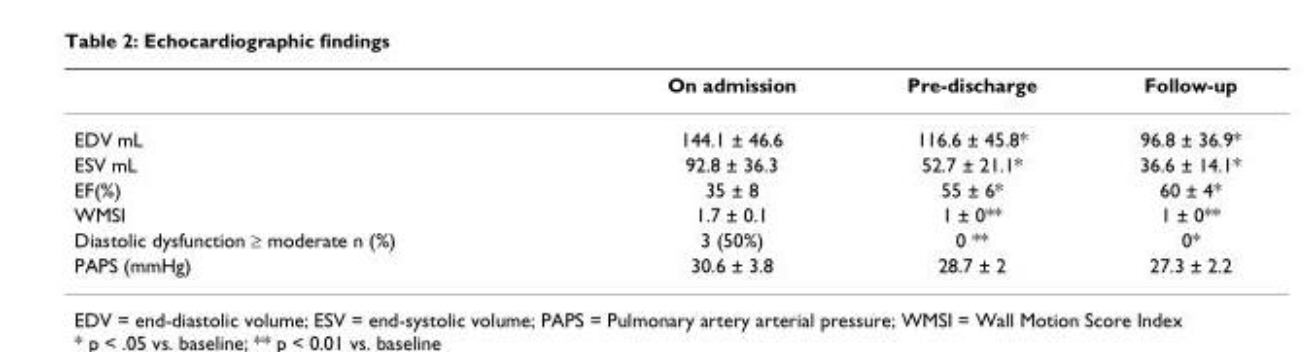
<table><thead><tr><td></td><td>On admission</td><td>Pre-discharge</td><td>Follow-up</td></tr></thead><tbody><tr><td>EDV mL</td><td>144.1 ± 46.6</td><td>116.6 ± 45.8*</td><td>96.8 ± 36.9*</td></tr><tr><td>ESV mL</td><td>92.8 ± 36.3</td><td>52.7 ± 21.1*</td><td>36.6 ± 14.1*</td></tr><tr><td>EF(%)</td><td>35 ± 8</td><td>55 ± 6*</td><td>60 ± 4*</td></tr><tr><td>WMSI</td><td>1.7 ± 0.1</td><td>1 ± 0**</td><td>1 ± 0**</td></tr><tr><td>Diastolic dysfunction ≥ moderate n (%)</td><td>3 (50%)</td><td>0 **</td><td>0*</td></tr><tr><td>PAPS (mmHg)</td><td>30.6 ± 3.8</td><td>28.7 ± 2</td><td>27.3 ± 2.2</td></tr></tbody></table>